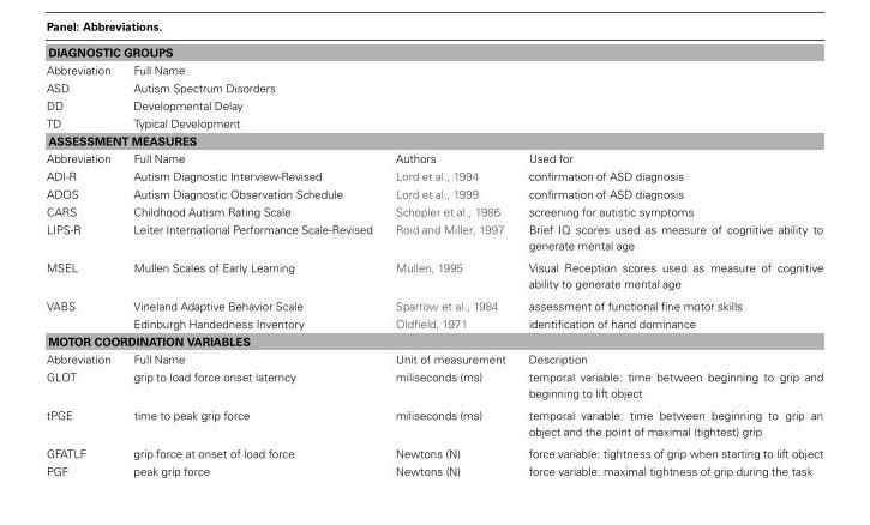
<table><tbody><tr><td colspan="4">DIAGNOSTIC GROUPS</td></tr><tr><td>Abbreviation</td><td>Full Name</td><td></td><td></td></tr><tr><td>ASD</td><td>Autism Spectrum Disorders</td><td></td><td></td></tr><tr><td>DD</td><td>Developmental Delay</td><td></td><td></td></tr><tr><td>TD</td><td>Typical Development</td><td></td><td></td></tr><tr><td colspan="4">ASSESSMENT MEASURES</td></tr><tr><td>Abbreviation</td><td>Full Name</td><td>Authors</td><td>Used for</td></tr><tr><td>ADI-R</td><td>Autism Diagnostic Interview-Revised</td><td>Lord et al., 1994</td><td>confirmation of ASD diagnosis</td></tr><tr><td>ADOS</td><td>Autism Diagnostic Observation Schedule</td><td>Lord et al., 1999</td><td>confirmation of ASD diagnosis</td></tr><tr><td>CARS</td><td>Childhood Autism Rating Scale</td><td>Schopler et al., 1986</td><td>screening for autistic symptoms</td></tr><tr><td>LIPS-R</td><td>Leiter International Performance Scale-Revised</td><td>Roid and Miller, 1997</td><td>Brief IQ scores used as measure of cognitive ability to generate mental age</td></tr><tr><td>MSEL</td><td>Mullen Scales of Early Learning</td><td>Mullen, 1995</td><td>Visual Reception scores used as measure of cognitive ability to generate mental age</td></tr><tr><td rowspan="2">VABS</td><td>Vineland Adaptive Behavior Scale</td><td>Sparrow et al., 1984</td><td>assessment of functional fine motor skills</td></tr><tr><td>Edinburgh Handedness Inventory</td><td>Oldfield, 1971</td><td>identification of hand dominance</td></tr><tr><td colspan="4">MOTOR COORDINATION VARIABLES</td></tr><tr><td>Abbreviation</td><td>Full Name</td><td>Unit of measurement</td><td>Description</td></tr><tr><td>GLOT</td><td>grip to load force onset laterncy</td><td>miliseconds (ms)</td><td>temporal variable: time between beginning to grip and beginning to lift object</td></tr><tr><td>tPGE</td><td>time to peak grip force</td><td>miliseconds (ms)</td><td>temporal variable: time between beginning to grip an object and the point of maximal (tightest) grip</td></tr><tr><td>GFATLF</td><td>grip force at onset of load force</td><td>Newtons (N)</td><td>force variable: tightness of grip when starting to lift object</td></tr><tr><td>PGF</td><td>peak grip force</td><td>Newtons (N)</td><td>force variable: maximal tightness of grip during the task</td></tr></tbody></table>